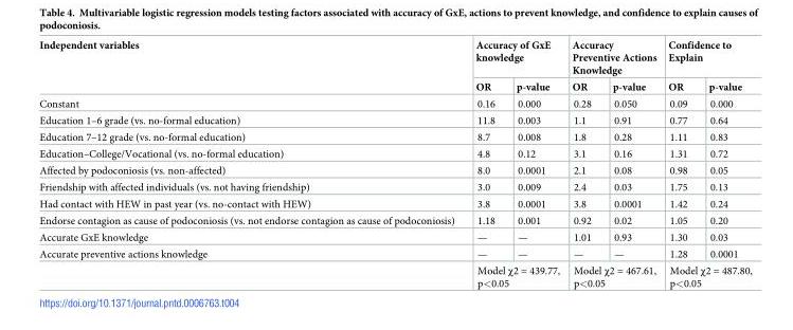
<table><thead><tr><td rowspan="2">Independent variables</td><td colspan="2">Accuracy of GxE knowledge</td><td colspan="2">Accuracy Preventive Actions Knowledge</td><td colspan="2">Confidence to Explain</td></tr><tr><td>OR</td><td>p-value</td><td>OR</td><td>p-value</td><td>OR</td><td>p-value</td></tr></thead><tbody><tr><td>Constant</td><td>0.16</td><td>0.000</td><td>0.28</td><td>0.050</td><td>0.09</td><td>0.000</td></tr><tr><td>Education 1–6 grade (vs. no-formal education)</td><td>11.8</td><td>0.003</td><td>1.1</td><td>0.91</td><td>0.77</td><td>0.64</td></tr><tr><td>Education 7–12 grade (vs. no-formal education)</td><td>8.7</td><td>0.008</td><td>1.8</td><td>0.28</td><td>1.11</td><td>0.83</td></tr><tr><td>Education–College/Vocational (vs. no-formal education)</td><td>4.8</td><td>0.12</td><td>3.1</td><td>0.16</td><td>1.31</td><td>0.72</td></tr><tr><td>Affected by podoconiosis (vs. non-affected)</td><td>8.0</td><td>0.0001</td><td>2.1</td><td>0.08</td><td>0.98</td><td>0.05</td></tr><tr><td>Friendship with affected individuals (vs. not having friendship)</td><td>3.0</td><td>0.009</td><td>2.4</td><td>0.03</td><td>1.75</td><td>0.13</td></tr><tr><td>Had contact with HEW in past year (vs. no-contact with HEW)</td><td>3.8</td><td>0.0001</td><td>3.8</td><td>0.0001</td><td>1.42</td><td>0.24</td></tr><tr><td>Endorse contagion as cause of podoconiosis (vs. not endorse contagion as cause of podoconiosis)</td><td>1.18</td><td>0.001</td><td>0.92</td><td>0.02</td><td>1.05</td><td>0.20</td></tr><tr><td>Accurate GxE knowledge</td><td>—</td><td>—</td><td>1.01</td><td>0.93</td><td>1.30</td><td>0.03</td></tr><tr><td rowspan="2">Accurate preventive actions knowledge</td><td>—</td><td>—</td><td>—</td><td>—</td><td>1.28</td><td>0.0001</td></tr><tr><td colspan="2">Model χ2 = 439.77, p&lt;0.05</td><td colspan="2">Model χ2 = 467.61, p&lt;0.05</td><td colspan="2">Model χ2 = 487.80, p&lt;0.05</td></tr></tbody></table>